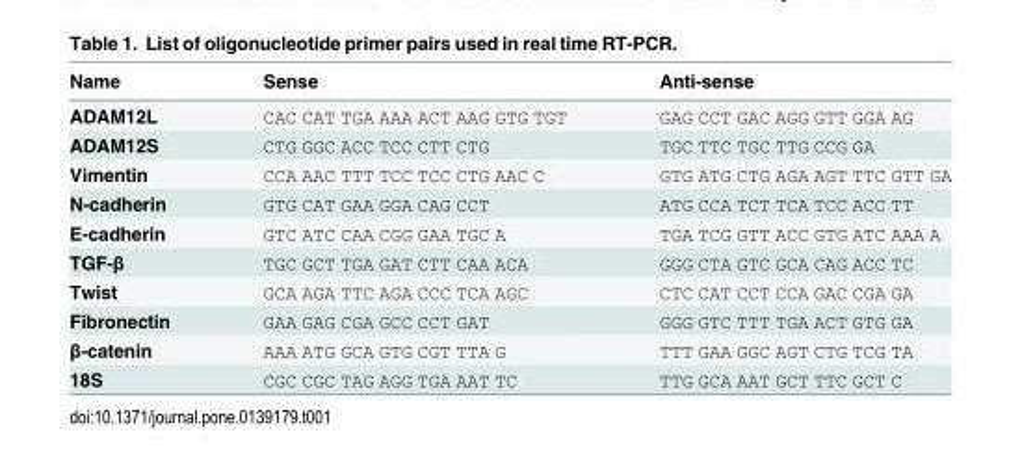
<table><thead><tr><td>Name</td><td>Sense</td><td>Anti-sense</td></tr></thead><tbody><tr><td>ADAM12L</td><td>CAC CAT TGA AAA ACT AAG GTG TGT</td><td>GAG CCT GAC AGG GTT GGA AG</td></tr><tr><td>ADAM12S</td><td>CTG GGC ACC TCC CTT CTG</td><td>TGC TTC TGC TTG CCG GA</td></tr><tr><td>Vimentin</td><td>CCA AAC TTT TCC TCC CTG AAC C</td><td>GTG ATG CTG AGA AGT TTC GTT GA</td></tr><tr><td>N-cadherin</td><td>GTG CAT GAA GGA CAG CCT</td><td>ATG CCA TCT TCA TCC ACC TT</td></tr><tr><td>E-cadherin</td><td>GTC ATC CAA CGG GAA TGC A</td><td>TGA TCG GTT ACC GTG ATC AAA A</td></tr><tr><td>TGF-β</td><td>TGC GCT TGA GAT CTT CAA ACA</td><td>GGG CTA GTC GCA CAG ACC TC</td></tr><tr><td>Twist</td><td>GCA AGA TTC AGA CCC TCA AGC</td><td>CTC CAT CCT CCA GAC CGA GA</td></tr><tr><td>Fibronectin</td><td>GAA GAG CGA GCC CCT GAT</td><td>GGG GTC TTT TGA ACT GTG GA</td></tr><tr><td>β-catenin</td><td>AAA ATG GCA GTG CGT TTA G</td><td>TTT GAA GGC AGT CTG TCG TA</td></tr><tr><td>18S</td><td>CGC CGC TAG AGG TGA AAT TC</td><td>TTG GCA AAT GCT TTC GCT C</td></tr></tbody></table>